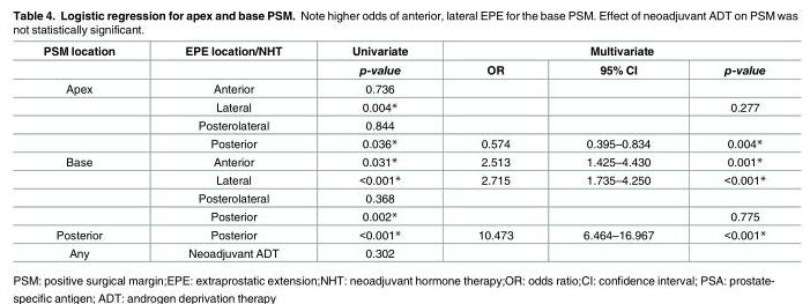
<table><thead><tr><td rowspan="2">PSM location</td><td rowspan="2">EPE location/NHT</td><td rowspan="2">Univariate p-value</td><td colspan="3">Multivariate</td></tr><tr><td>OR</td><td>95% CI</td><td>p-value</td></tr></thead><tbody><tr><td rowspan="4">Apex</td><td>Anterior</td><td>0.736</td><td></td><td></td><td></td></tr><tr><td>Lateral</td><td>0.004*</td><td></td><td></td><td>0.277</td></tr><tr><td>Posterolateral</td><td>0.844</td><td></td><td></td><td></td></tr><tr><td>Posterior</td><td>0.036*</td><td>0.574</td><td>0.395–0.834</td><td>0.004*</td></tr><tr><td rowspan="4">Base</td><td>Anterior</td><td>0.031*</td><td>2.513</td><td>1.425–4.430</td><td>0.001*</td></tr><tr><td>Lateral</td><td>&lt;0.001*</td><td>2.715</td><td>1.735–4.250</td><td>&lt;0.001*</td></tr><tr><td>Posterolateral</td><td>0.368</td><td></td><td></td><td></td></tr><tr><td>Posterior</td><td>0.002*</td><td></td><td></td><td>0.775</td></tr><tr><td>Posterior</td><td>Posterior</td><td>&lt;0.001*</td><td>10.473</td><td>6.464–16.967</td><td>&lt;0.001*</td></tr><tr><td>Any</td><td>Neoadjuvant ADT</td><td>0.302</td><td></td><td></td><td></td></tr></tbody></table>